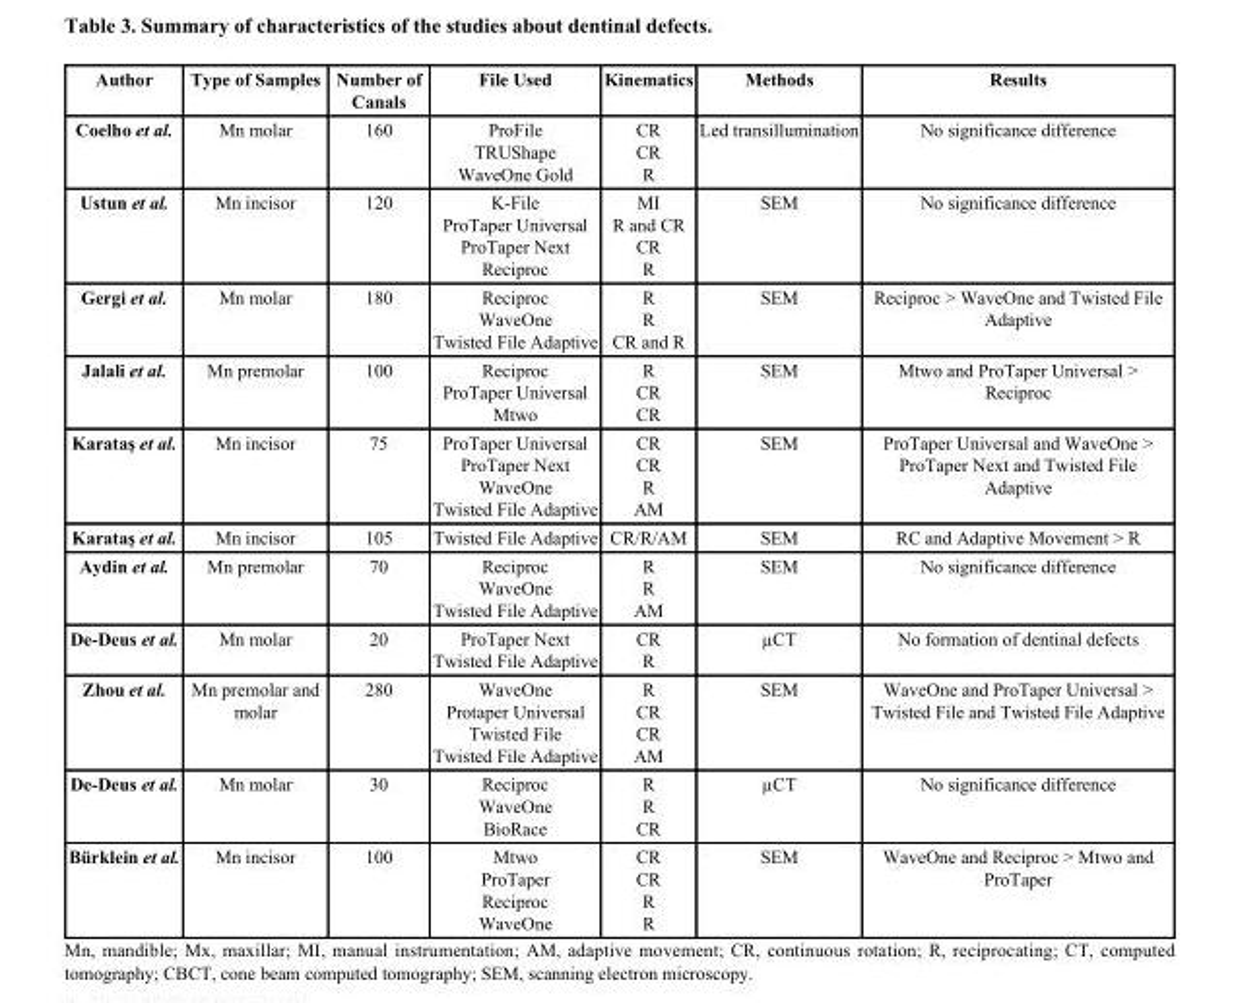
<table><thead><tr><td>Author</td><td>Type of Samples</td><td>Number of Canals</td><td>File Used</td><td>Kinematics</td><td>Methods</td><td>Results</td></tr></thead><tbody><tr><td>Coelho et al.</td><td>Mn molar</td><td>160</td><td>ProFile TRUShape WaveOne Gold</td><td>CR CR R</td><td>Led transillumination</td><td>No significance difference</td></tr><tr><td>Ustun et al.</td><td>Mn incisor</td><td>120</td><td>K-File ProTaper Universal ProTaper Next Reciproc</td><td>MI R and CR CR R</td><td>SEM</td><td>No significance difference</td></tr><tr><td>Gergi et al.</td><td>Mn molar</td><td>180</td><td>Reciproc WaveOne Twisted File Adaptive</td><td>R R CR and R</td><td>SEM</td><td>Reciproc &gt; WaveOne and Twisted File Adaptive</td></tr><tr><td>Jalali et al.</td><td>Mn premolar</td><td>100</td><td>Reciproc ProTaper Universal Mtwo</td><td>R CR CR</td><td>SEM</td><td>Mtwo and ProTaper Universal &gt; Reciproc</td></tr><tr><td>Karataş et al.</td><td>Mn incisor</td><td>75</td><td>ProTaper Universal ProTaper Next WaveOne Twisted File Adaptive</td><td>CR CR R AM</td><td>SEM</td><td>ProTaper Universal and WaveOne &gt; ProTaper Next and Twisted File Adaptive</td></tr><tr><td>Karataş et al.</td><td>Mn incisor</td><td>105</td><td>Twisted File Adaptive</td><td>CR/R/AM</td><td>SEM</td><td>RC and Adaptive Movement &gt; R</td></tr><tr><td>Aydin et al.</td><td>Mn premolar</td><td>70</td><td>Reciproc WaveOne Twisted File Adaptive</td><td>R R AM</td><td>SEM</td><td>No significance difference</td></tr><tr><td>De-Deus et al.</td><td>Mn molar</td><td>20</td><td>ProTaper Next Twisted File Adaptive</td><td>CR R</td><td>µCT</td><td>No formation of dentinal defects</td></tr><tr><td>Zhou et al.</td><td>Mn premolar and molar</td><td>280</td><td>WaveOne Protaper Universal Twisted File Twisted File Adaptive</td><td>R CR CR AM</td><td>SEM</td><td>WaveOne and ProTaper Universal &gt; Twisted File and Twisted File Adaptive</td></tr><tr><td>De-Deus et al.</td><td>Mn molar</td><td>30</td><td>Reciproc WaveOne BioRace</td><td>R R CR</td><td>µCT</td><td>No significance difference</td></tr><tr><td>Bürklein et al.</td><td>Mn incisor</td><td>100</td><td>Mtwo ProTaper Reciproc WaveOne</td><td>CR CR R R</td><td>SEM</td><td>WaveOne and Reciproc &gt; Mtwo and ProTaper</td></tr></tbody></table>